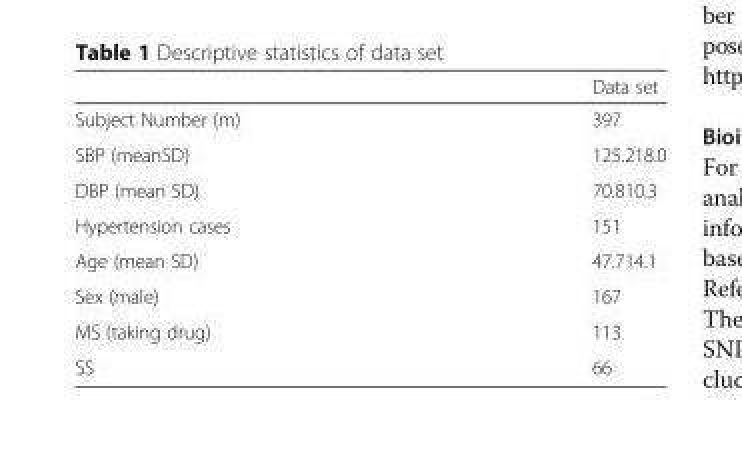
<table><thead><tr><td></td><td>Data set</td></tr></thead><tbody><tr><td>Subject Number (m)</td><td>397</td></tr><tr><td>SBP (meanSD)</td><td>125.218.0</td></tr><tr><td>DBP (mean SD)</td><td>70.810.3</td></tr><tr><td>Hypertension cases</td><td>151</td></tr><tr><td>Age (mean SD)</td><td>47.714.1</td></tr><tr><td>Sex (male)</td><td>167</td></tr><tr><td>MS (taking drug)</td><td>113</td></tr><tr><td>SS</td><td>66</td></tr></tbody></table>